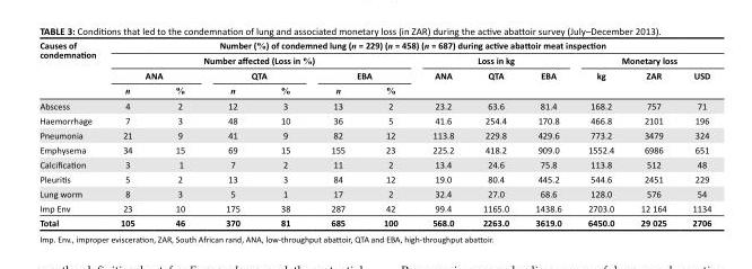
<table><thead><tr><td rowspan="4">Causes of condemnation</td><td colspan="12">Number (%) of condemned lung (n = 229) (n = 458) (n = 687) during active abattoir meat inspection</td></tr><tr><td colspan="6">Number affected (Loss in %)</td><td colspan="3">Loss in kg</td><td colspan="3">Monetary loss</td></tr><tr><td colspan="2">ANA</td><td colspan="2">QTA</td><td colspan="2">EBA</td><td rowspan="2">ANA</td><td rowspan="2">QTA</td><td rowspan="2">EBA</td><td rowspan="2">kg</td><td rowspan="2">ZAR</td><td rowspan="2">USD</td></tr><tr><td>n</td><td>%</td><td>n</td><td>%</td><td>n</td><td>%</td></tr></thead><tbody><tr><td>Abscess</td><td>4</td><td>2</td><td>12</td><td>3</td><td>13</td><td>2</td><td>23.2</td><td>63.6</td><td>81.4</td><td>168.2</td><td>757</td><td>71</td></tr><tr><td>Haemorrhage</td><td>7</td><td>3</td><td>48</td><td>10</td><td>36</td><td>5</td><td>41.6</td><td>254.4</td><td>170.8</td><td>466.8</td><td>2101</td><td>196</td></tr><tr><td>Pneumonia</td><td>21</td><td>9</td><td>41</td><td>9</td><td>82</td><td>12</td><td>113.8</td><td>229.8</td><td>429.6</td><td>773.2</td><td>3479</td><td>324</td></tr><tr><td>Emphysema</td><td>34</td><td>15</td><td>69</td><td>15</td><td>155</td><td>23</td><td>225.2</td><td>418.2</td><td>909.0</td><td>1552.4</td><td>6986</td><td>651</td></tr><tr><td>Calcification</td><td>3</td><td>1</td><td>7</td><td>2</td><td>11</td><td>2</td><td>13.4</td><td>24.6</td><td>75.8</td><td>113.8</td><td>512</td><td>48</td></tr><tr><td>Pleuritis</td><td>5</td><td>2</td><td>13</td><td>3</td><td>84</td><td>12</td><td>19.0</td><td>80.4</td><td>445.2</td><td>544.6</td><td>2451</td><td>229</td></tr><tr><td>Lung worm</td><td>8</td><td>3</td><td>5</td><td>1</td><td>17</td><td>2</td><td>32.4</td><td>27.0</td><td>68.6</td><td>128.0</td><td>576</td><td>54</td></tr><tr><td>Imp Env</td><td>23</td><td>10</td><td>175</td><td>38</td><td>287</td><td>42</td><td>99.4</td><td>1165.0</td><td>1438.6</td><td>2703.0</td><td>12 164</td><td>1134</td></tr><tr><td>Total</td><td>105</td><td>46</td><td>370</td><td>81</td><td>685</td><td>100</td><td>568.0</td><td>2263.0</td><td>3619.0</td><td>6450.0</td><td>29 025</td><td>2706</td></tr></tbody></table>